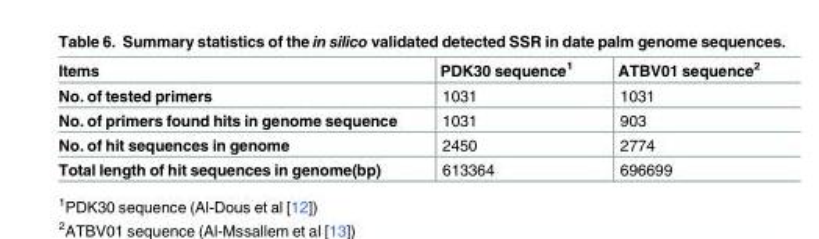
<table><thead><tr><td>Items</td><td>PDK30 sequence<sup>1</sup></td><td>ATBV01 sequence<sup>2</sup></td></tr></thead><tbody><tr><td>No. of tested primers</td><td>1031</td><td>1031</td></tr><tr><td>No. of primers found hits in genome sequence</td><td>1031</td><td>903</td></tr><tr><td>No. of hit sequences in genome</td><td>2450</td><td>2774</td></tr><tr><td>Total length of hit sequences in genome(bp)</td><td>613364</td><td>696699</td></tr></tbody></table>